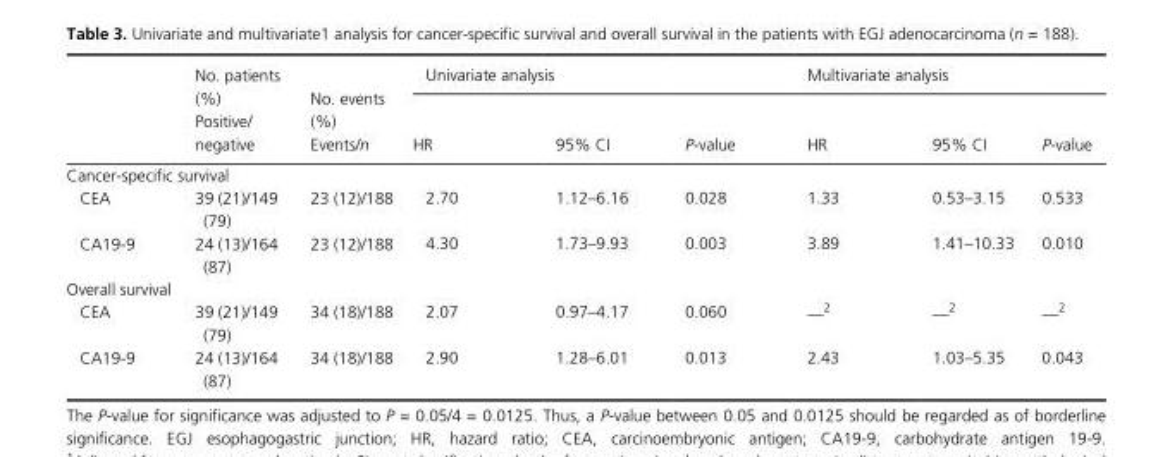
<table><thead><tr><td rowspan="2"></td><td rowspan="2">No. patients (%) Positive/ negative</td><td rowspan="2">No. events (%) Events/n</td><td colspan="3">Univariate analysis</td><td colspan="3">Multivariate analysis</td></tr><tr><td>HR</td><td>95% CI</td><td>P-value</td><td>HR</td><td>95% CI</td><td>P-value</td></tr></thead><tbody><tr><td colspan="9">Cancer- specific survival</td></tr><tr><td>CEA</td><td>39 (21)/149 (79)</td><td>23 (12)/188</td><td>2.70</td><td>1.12–6.16</td><td>0.028</td><td>1.33</td><td>0.53–3.15</td><td>0.533</td></tr><tr><td>CA19- 9</td><td>24 (13)/164 (87)</td><td>23 (12)/188</td><td>4.30</td><td>1.73–9.93</td><td>0.003</td><td>3.89</td><td>1.41–10.33</td><td>0.010</td></tr><tr><td colspan="9">Overall survival</td></tr><tr><td>CEA</td><td>39 (21)/149 (79)</td><td>34 (18)/188</td><td>2.07</td><td>0.97–4.17</td><td>0.060</td><td>—2</td><td>—2</td><td>—2</td></tr><tr><td>CA19- 9</td><td>24 (13)/164 (87)</td><td>34 (18)/188</td><td>2.90</td><td>1.28–6.01</td><td>0.013</td><td>2.43</td><td>1.03–5.35</td><td>0.043</td></tr></tbody></table>